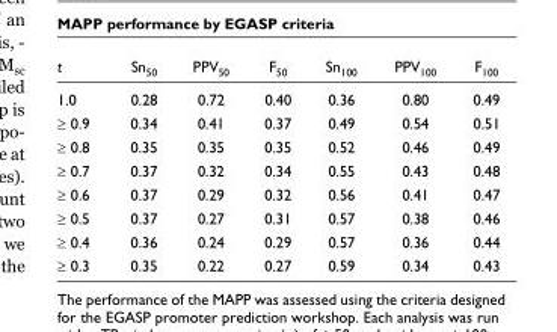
<table><thead><tr><td>t</td><td>Sn<sub>50</sub></td><td>PPV<sub>50</sub></td><td>F<sub>50</sub></td><td>Sn<sub>100</sub></td><td>PPV<sub>100</sub></td><td>F<sub>100</sub></td></tr></thead><tbody><tr><td>1.0</td><td>0.28</td><td>0.72</td><td>0.40</td><td>0.36</td><td>0.80</td><td>0.49</td></tr><tr><td>≥ 0.9</td><td>0.34</td><td>0.41</td><td>0.37</td><td>0.49</td><td>0.54</td><td>0.51</td></tr><tr><td>≥ 0.8</td><td>0.35</td><td>0.35</td><td>0.35</td><td>0.52</td><td>0.46</td><td>0.49</td></tr><tr><td>≥ 0.7</td><td>0.37</td><td>0.32</td><td>0.34</td><td>0.55</td><td>0.43</td><td>0.48</td></tr><tr><td>≥ 0.6</td><td>0.37</td><td>0.29</td><td>0.32</td><td>0.56</td><td>0.41</td><td>0.47</td></tr><tr><td>≥ 0.5</td><td>0.37</td><td>0.27</td><td>0.31</td><td>0.57</td><td>0.38</td><td>0.46</td></tr><tr><td>≥ 0.4</td><td>0.36</td><td>0.24</td><td>0.29</td><td>0.57</td><td>0.36</td><td>0.44</td></tr><tr><td>≥ 0.3</td><td>0.35</td><td>0.22</td><td>0.27</td><td>0.59</td><td>0.34</td><td>0.43</td></tr></tbody></table>